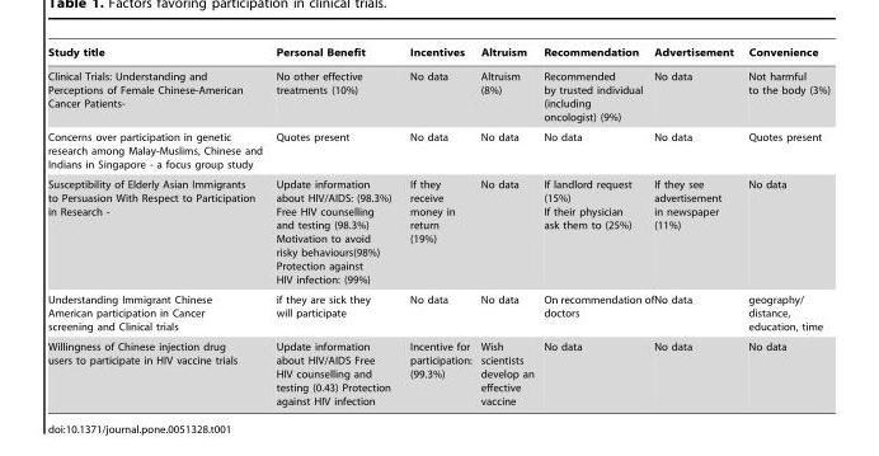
<table><thead><tr><td>Study title</td><td>Personal Benefit</td><td>Incentives</td><td>Altruism</td><td>Recommendation</td><td>Advertisement</td><td>Convenience</td></tr></thead><tbody><tr><td>Clinical Trials: Understanding and Perceptions of Female Chinese-American Cancer Patients-</td><td>No other effective treatments (10%)</td><td>No data</td><td>Altruism (8%)</td><td>Recommended by trusted individual (including oncologist) (9%)</td><td>No data</td><td>Not harmful to the body (3%)</td></tr><tr><td>Concerns over participation in genetic research among Malay-Muslims, Chinese and Indians in Singapore - a focus group study</td><td>Quotes present</td><td>No data</td><td>No data</td><td>No data</td><td>No data</td><td>Quotes present</td></tr><tr><td>Susceptibility of Elderly Asian Immigrants to Persuasion With Respect to Participation in Research -</td><td>Update information about HIV/AIDS: (98.3%) Free HIV counselling and testing (98.3%) Motivation to avoid risky behaviours(98%) Protection against HIV infection: (99%)</td><td>If they receive money in return (19%)</td><td>No data</td><td>If landlord request (15%) If their physician ask them to (25%)</td><td>If they see advertisement in newspaper (11%)</td><td>No data</td></tr><tr><td>Understanding Immigrant Chinese American participation in Cancer screening and Clinical trials</td><td>if they are sick they will participate</td><td>No data</td><td>No data</td><td>On recommendation of doctors</td><td>No data</td><td>geography/ distance, education, time</td></tr><tr><td>Willingness of Chinese injection drug users to participate in HIV vaccine trials</td><td>Update information about HIV/AIDS Free HIV counselling and testing (0.43) Protection against HIV infection</td><td>Incentive for participation: (99.3%)</td><td>Wish scientists develop an effective vaccine</td><td>No data</td><td>No data</td><td>No data</td></tr></tbody></table>